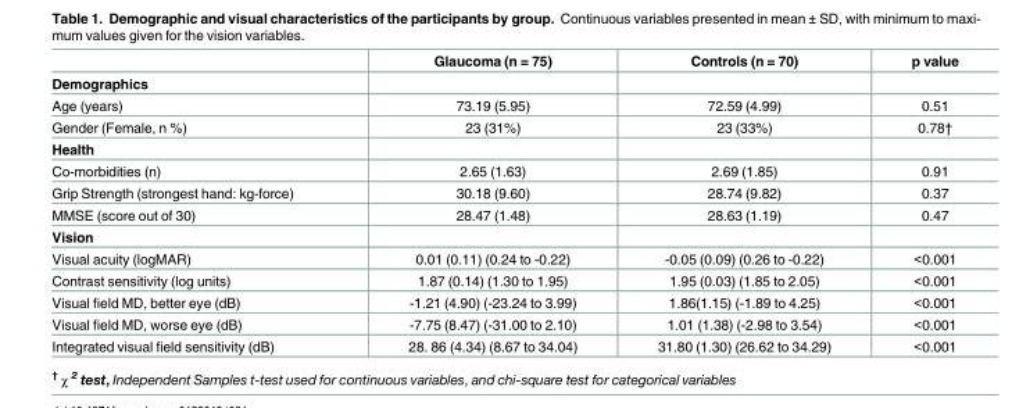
<table><thead><tr><td></td><td>Glaucoma (n = 75)</td><td>Controls (n = 70)</td><td>p value</td></tr></thead><tbody><tr><td colspan="4">Demographics</td></tr><tr><td>Age (years)</td><td>73.19 (5.95)</td><td>72.59 (4.99)</td><td>0.51</td></tr><tr><td>Gender (Female, n %)</td><td>23 (31%)</td><td>23 (33%)</td><td>0.78†</td></tr><tr><td colspan="4">Health</td></tr><tr><td>Co-morbidities (n)</td><td>2.65 (1.63)</td><td>2.69 (1.85)</td><td>0.91</td></tr><tr><td>Grip Strength (strongest hand: kg-force)</td><td>30.18 (9.60)</td><td>28.74 (9.82)</td><td>0.37</td></tr><tr><td>MMSE (score out of 30)</td><td>28.47 (1.48)</td><td>28.63 (1.19)</td><td>0.47</td></tr><tr><td colspan="4">Vision</td></tr><tr><td>Visual acuity (logMAR)</td><td>0.01 (0.11) (0.24 to -0.22)</td><td>-0.05 (0.09) (0.26 to -0.22)</td><td>&lt;0.001</td></tr><tr><td>Contrast sensitivity (log units)</td><td>1.87 (0.14) (1.30 to 1.95)</td><td>1.95 (0.03) (1.85 to 2.05)</td><td>&lt;0.001</td></tr><tr><td>Visual field MD, better eye (dB)</td><td>-1.21 (4.90) (-23.24 to 3.99)</td><td>1.86(1.15) (-1.89 to 4.25)</td><td>&lt;0.001</td></tr><tr><td>Visual field MD, worse eye (dB)</td><td>-7.75 (8.47) (-31.00 to 2.10)</td><td>1.01 (1.38) (-2.98 to 3.54)</td><td>&lt;0.001</td></tr><tr><td>Integrated visual field sensitivity (dB)</td><td>28. 86 (4.34) (8.67 to 34.04)</td><td>31.80 (1.30) (26.62 to 34.29)</td><td>&lt;0.001</td></tr></tbody></table>